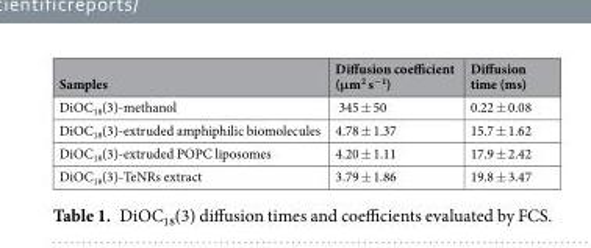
<table><thead><tr><td>Samples</td><td>Diffusion coefficient (μm<sup>2</sup> s<sup>−1</sup>)</td><td>Diffusion time (ms)</td></tr></thead><tbody><tr><td>DiOC<sub>18</sub>(3)-methanol</td><td>345 ± 50</td><td>0.22 ± 0.08</td></tr><tr><td>DiOC<sub>18</sub>(3)-extruded amphiphilic biomolecules</td><td>4.78 ± 1.37</td><td>15.7 ± 1.62</td></tr><tr><td>DiOC<sub>18</sub>(3)-extruded POPC liposomes</td><td>4.20 ± 1.11</td><td>17.9 ± 2.42</td></tr><tr><td>DiOC<sub>18</sub>(3)-TeNRs extract</td><td>3.79 ± 1.86</td><td>19.8 ± 3.47</td></tr></tbody></table>